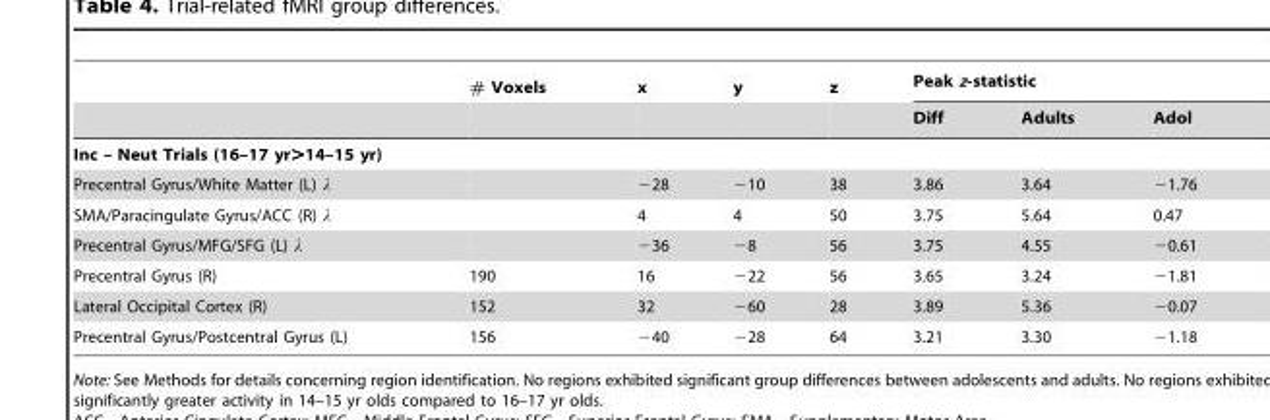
<table><thead><tr><td rowspan="2"></td><td rowspan="2"># Voxels</td><td rowspan="2">x</td><td rowspan="2">y</td><td rowspan="2">z</td><td colspan="3">Peak z-statistic</td></tr><tr><td>Diff</td><td>Adults</td><td>Adol</td></tr></thead><tbody><tr><td colspan="8">Inc – Neut Trials (16–17 yr&gt;14–15 yr)</td></tr><tr><td>Precentral Gyrus/White Matter (L) λ</td><td></td><td>−28</td><td>−10</td><td>38</td><td>3.86</td><td>3.64</td><td>−1.76</td></tr><tr><td>SMA/Paracingulate Gyrus/ACC (R) λ</td><td></td><td>4</td><td>4</td><td>50</td><td>3.75</td><td>5.64</td><td>0.47</td></tr><tr><td>Precentral Gyrus/MFG/SFG (L) λ</td><td></td><td>−36</td><td>−8</td><td>56</td><td>3.75</td><td>4.55</td><td>−0.61</td></tr><tr><td>Precentral Gyrus (R)</td><td>190</td><td>16</td><td>−22</td><td>56</td><td>3.65</td><td>3.24</td><td>−1.81</td></tr><tr><td>Lateral Occipital Cortex (R)</td><td>152</td><td>32</td><td>−60</td><td>28</td><td>3.89</td><td>5.36</td><td>−0.07</td></tr><tr><td>Precentral Gyrus/Postcentral Gyrus (L)</td><td>156</td><td>−40</td><td>−28</td><td>64</td><td>3.21</td><td>3.30</td><td>−1.18</td></tr></tbody></table>